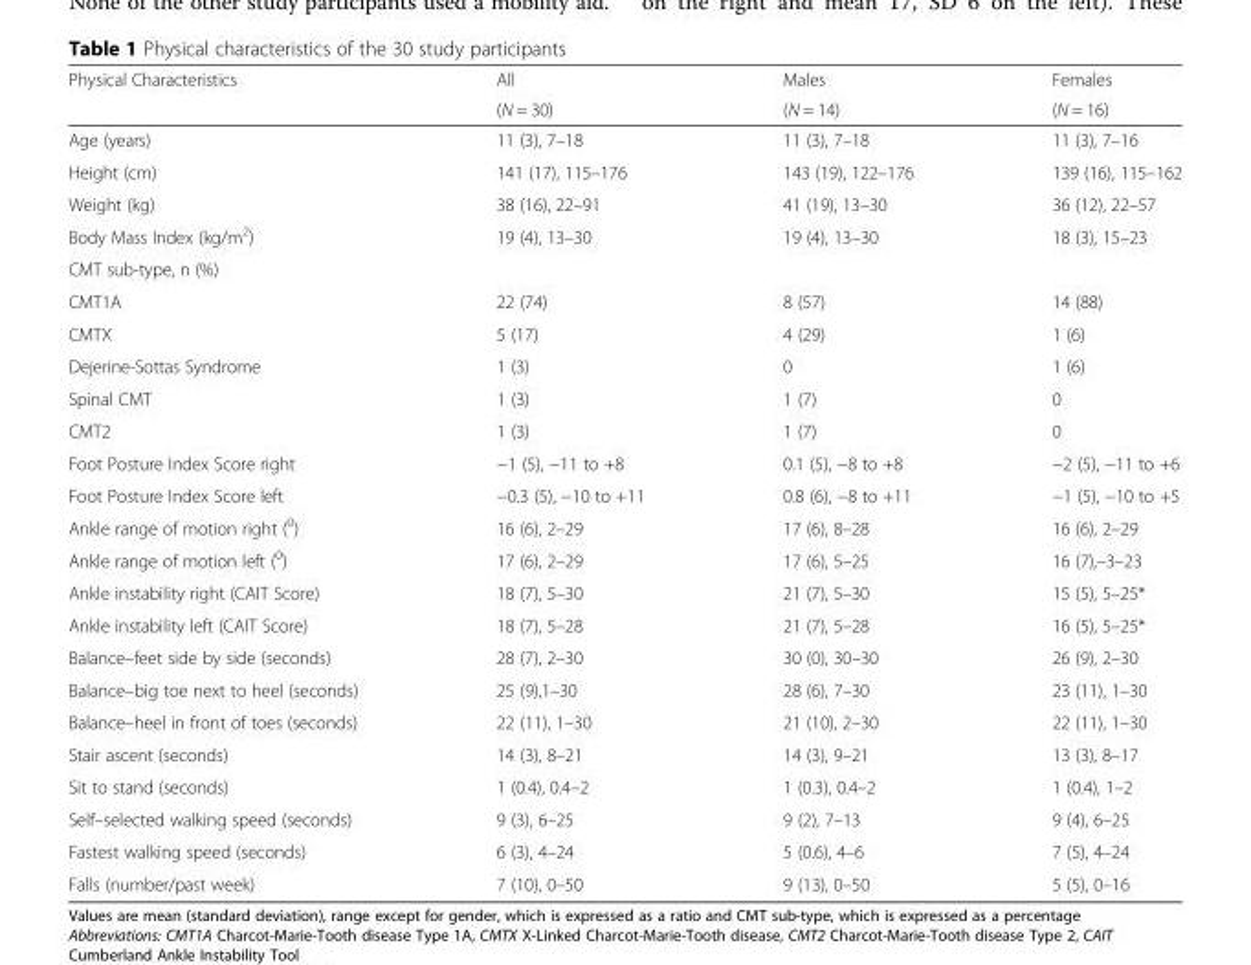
<table><thead><tr><td rowspan="2">Physical Characteristics</td><td rowspan="2">All (N = 30)</td><td rowspan="2">Males (N = 14)</td><td rowspan="2">Females (N = 16)</td></tr><tr></tr></thead><tbody><tr><td>Age (years)</td><td>11 (3), 7–18</td><td>11 (3), 7–18</td><td>11 (3), 7–16</td></tr><tr><td>Height (cm)</td><td>141 (17), 115–176</td><td>143 (19), 122–176</td><td>139 (16), 115–162</td></tr><tr><td>Weight (kg)</td><td>38 (16), 22–91</td><td>41 (19), 13–30</td><td>36 (12), 22–57</td></tr><tr><td>Body Mass Index (kg/m<sup>2</sup>)</td><td>19 (4), 13–30</td><td>19 (4), 13–30</td><td>18 (3), 15–23</td></tr><tr><td colspan="4">CMT sub-type, n (%)</td></tr><tr><td>CMT1A</td><td>22 (74)</td><td>8 (57)</td><td>14 (88)</td></tr><tr><td>CMTX</td><td>5 (17)</td><td>4 (29)</td><td>1 (6)</td></tr><tr><td>Dejerine-Sottas Syndrome</td><td>1 (3)</td><td>0</td><td>1 (6)</td></tr><tr><td>Spinal CMT</td><td>1 (3)</td><td>1 (7)</td><td>0</td></tr><tr><td>CMT2</td><td>1 (3)</td><td>1 (7)</td><td>0</td></tr><tr><td>Foot Posture Index Score right</td><td>−1 (5), −11 to +8</td><td>0.1 (5), −8 to +8</td><td>−2 (5), −11 to +6</td></tr><tr><td>Foot Posture Index Score left</td><td>−0.3 (5), −10 to +11</td><td>0.8 (6), −8 to +11</td><td>−1 (5), −10 to +5</td></tr><tr><td>Ankle range of motion right (<sup>0</sup>)</td><td>16 (6), 2–29</td><td>17 (6), 8–28</td><td>16 (6), 2–29</td></tr><tr><td>Ankle range of motion left (<sup>0</sup>)</td><td>17 (6), 2–29</td><td>17 (6), 5–25</td><td>16 (7),–3–23</td></tr><tr><td>Ankle instability right (CAIT Score)</td><td>18 (7), 5–30</td><td>21 (7), 5–30</td><td>15 (5), 5–25*</td></tr><tr><td>Ankle instability left (CAIT Score)</td><td>18 (7), 5–28</td><td>21 (7), 5–28</td><td>16 (5), 5–25*</td></tr><tr><td>Balance–feet side by side (seconds)</td><td>28 (7), 2–30</td><td>30 (0), 30–30</td><td>26 (9), 2–30</td></tr><tr><td>Balance–big toe next to heel (seconds)</td><td>25 (9),1–30</td><td>28 (6), 7–30</td><td>23 (11), 1–30</td></tr><tr><td>Balance–heel in front of toes (seconds)</td><td>22 (11), 1–30</td><td>21 (10), 2–30</td><td>22 (11), 1–30</td></tr><tr><td>Stair ascent (seconds)</td><td>14 (3), 8–21</td><td>14 (3), 9–21</td><td>13 (3), 8–17</td></tr><tr><td>Sit to stand (seconds)</td><td>1 (0.4), 0.4–2</td><td>1 (0.3), 0.4–2</td><td>1 (0.4), 1–2</td></tr><tr><td>Self–selected walking speed (seconds)</td><td>9 (3), 6–25</td><td>9 (2), 7–13</td><td>9 (4), 6–25</td></tr><tr><td>Fastest walking speed (seconds)</td><td>6 (3), 4–24</td><td>5 (0.6), 4–6</td><td>7 (5), 4–24</td></tr><tr><td>Falls (number/past week)</td><td>7 (10), 0–50</td><td>9 (13), 0–50</td><td>5 (5), 0–16</td></tr></tbody></table>